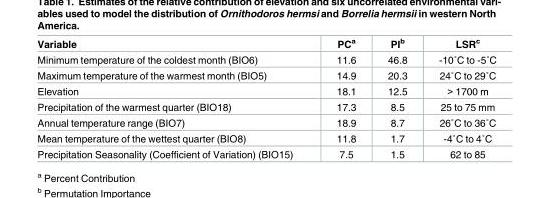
<table><thead><tr><td>Variable</td><td>PC<sup>a</sup></td><td>PI<sup>b</sup></td><td>LSR<sup>c</sup></td></tr></thead><tbody><tr><td>Minimum temperature of the coldest month (BIO6)</td><td>11.6</td><td>46.8</td><td>-10˚C to -5˚C</td></tr><tr><td>Maximum temperature of the warmest month (BIO5)</td><td>14.9</td><td>20.3</td><td>24˚C to 29˚C</td></tr><tr><td>Elevation</td><td>18.1</td><td>12.5</td><td>&gt; 1700 m</td></tr><tr><td>Precipitation of the warmest quarter (BIO18)</td><td>17.3</td><td>8.5</td><td>25 to 75 mm</td></tr><tr><td>Annual temperature range (BIO7)</td><td>18.9</td><td>8.7</td><td>26˚C to 36˚C</td></tr><tr><td>Mean temperature of the wettest quarter (BIO8)</td><td>11.8</td><td>1.7</td><td>-4˚C to 4˚C</td></tr><tr><td>Precipitation Seasonality (Coefficient of Variation) (BIO15)</td><td>7.5</td><td>1.5</td><td>62 to 85</td></tr></tbody></table>